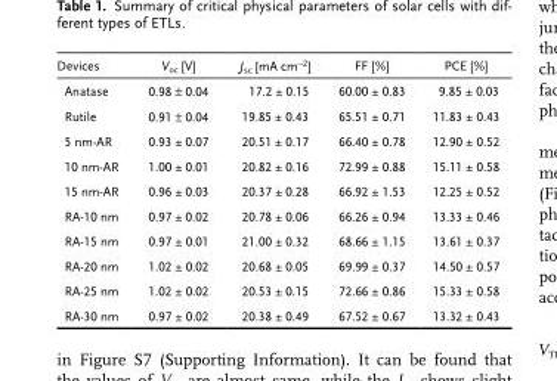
<table><thead><tr><td>Devices</td><td>V<sub>oc</sub> [V]</td><td>J<sub>sc</sub> [mA cm<sup>−2</sup>]</td><td>FF [%]</td><td>PCE [%]</td></tr></thead><tbody><tr><td>Anatase</td><td>0.98 ± 0.04</td><td>17.2 ± 0.15</td><td>60.00 ± 0.83</td><td>9.85 ± 0.03</td></tr><tr><td>Rutile</td><td>0.91 ± 0.04</td><td>19.85 ± 0.43</td><td>65.51 ± 0.71</td><td>11.83 ± 0.43</td></tr><tr><td>5 nm-AR</td><td>0.93 ± 0.07</td><td>20.51 ± 0.17</td><td>66.40 ± 0.78</td><td>12.90 ± 0.52</td></tr><tr><td>10 nm-AR</td><td>1.00 ± 0.01</td><td>20.82 ± 0.16</td><td>72.99 ± 0.88</td><td>15.11 ± 0.58</td></tr><tr><td>15 nm-AR</td><td>0.96 ± 0.03</td><td>20.37 ± 0.28</td><td>66.92 ± 1.53</td><td>12.25 ± 0.52</td></tr><tr><td>RA-10 nm</td><td>0.97 ± 0.02</td><td>20.78 ± 0.06</td><td>66.26 ± 0.94</td><td>13.33 ± 0.46</td></tr><tr><td>RA-15 nm</td><td>0.97 ± 0.01</td><td>21.00 ± 0.32</td><td>68.66 ± 1.15</td><td>13.61 ± 0.37</td></tr><tr><td>RA-20 nm</td><td>1.02 ± 0.02</td><td>20.68 ± 0.05</td><td>69.99 ± 0.37</td><td>14.50 ± 0.57</td></tr><tr><td>RA-25 nm</td><td>1.02 ± 0.02</td><td>20.53 ± 0.15</td><td>72.66 ± 0.86</td><td>15.33 ± 0.58</td></tr><tr><td>RA-30 nm</td><td>0.97 ± 0.02</td><td>20.38 ± 0.49</td><td>67.52 ± 0.67</td><td>13.32 ± 0.43</td></tr></tbody></table>